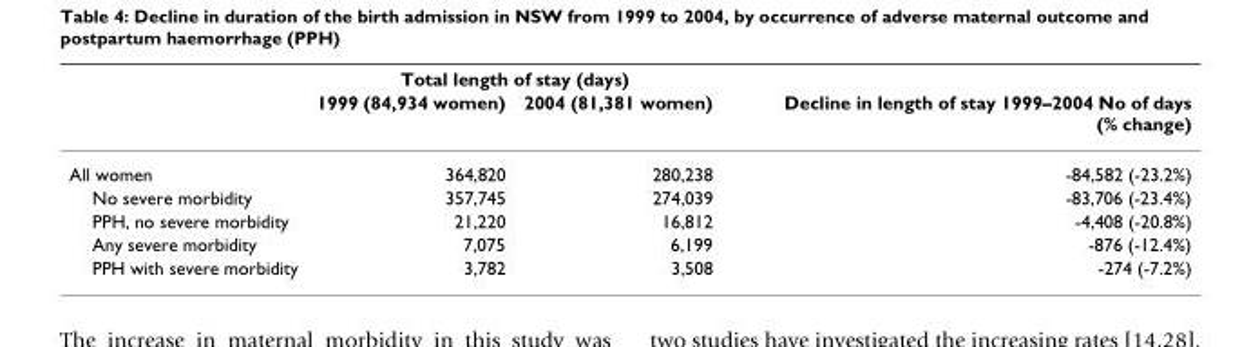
<table><thead><tr><td rowspan="2"></td><td colspan="2">Total length of stay (days)</td><td rowspan="2">Decline in length of stay 1999–2004 No of days (% change)</td></tr><tr><td>1999 (84,934 women)</td><td>2004 (81,381 women)</td></tr></thead><tbody><tr><td>All women</td><td>364,820</td><td>280,238</td><td>-84,582 (-23.2%)</td></tr><tr><td>No severe morbidity</td><td>357,745</td><td>274,039</td><td>-83,706 (-23.4%)</td></tr><tr><td>PPH, no severe morbidity</td><td>21,220</td><td>16,812</td><td>-4,408 (-20.8%)</td></tr><tr><td>Any severe morbidity</td><td>7,075</td><td>6,199</td><td>-876 (-12.4%)</td></tr><tr><td>PPH with severe morbidity</td><td>3,782</td><td>3,508</td><td>-274 (-7.2%)</td></tr></tbody></table>